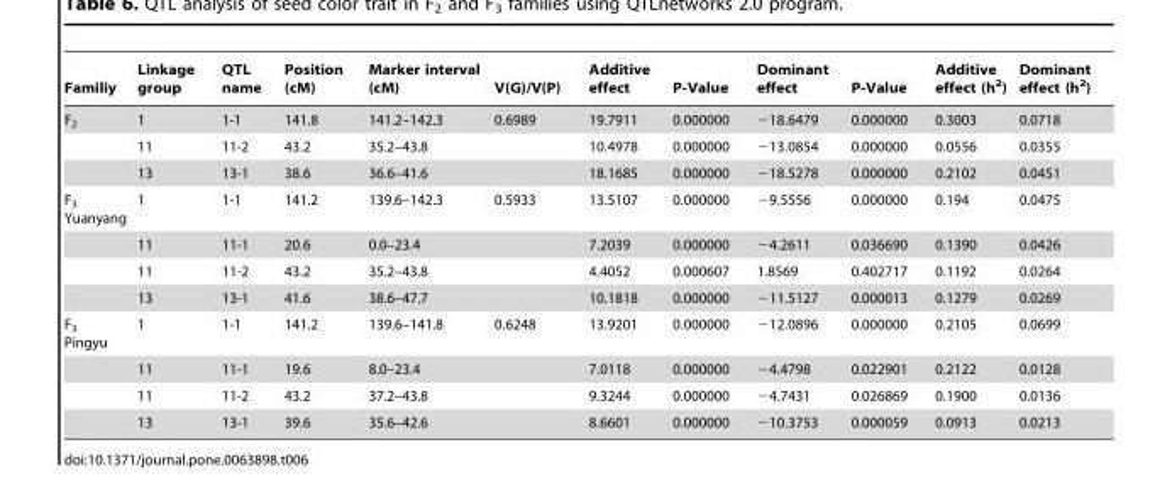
<table><thead><tr><td>Familiy</td><td>Linkage group</td><td>QTL name</td><td>Position (cM)</td><td>Marker interval (cM)</td><td>V(G)/V(P)</td><td>Additive effect</td><td>P-Value</td><td>Dominant effect</td><td>P-Value</td><td>Additive effect (h<sup>2</sup>)</td><td>Dominant effect (h<sup>2</sup>)</td></tr></thead><tbody><tr><td rowspan="3">F<sub>2</sub></td><td>1</td><td>1-1</td><td>141.8</td><td>141.2–142.3</td><td>0.6989</td><td>19.7911</td><td>0.000000</td><td>−18.6479</td><td>0.000000</td><td>0.3003</td><td>0.0718</td></tr><tr><td>11</td><td>11-2</td><td>43.2</td><td>35.2–43.8</td><td></td><td>10.4978</td><td>0.000000</td><td>−13.0854</td><td>0.000000</td><td>0.0556</td><td>0.0355</td></tr><tr><td>13</td><td>13-1</td><td>38.6</td><td>36.6–41.6</td><td></td><td>18.1685</td><td>0.000000</td><td>−18.5278</td><td>0.000000</td><td>0.2102</td><td>0.0451</td></tr><tr><td rowspan="4">F<sub>3</sub> Yuanyang</td><td>1</td><td>1-1</td><td>141.2</td><td>139.6–142.3</td><td>0.5933</td><td>13.5107</td><td>0.000000</td><td>−9.5556</td><td>0.000000</td><td>0.194</td><td>0.0475</td></tr><tr><td>11</td><td>11-1</td><td>20.6</td><td>0.0–23.4</td><td></td><td>7.2039</td><td>0.000000</td><td>−4.2611</td><td>0.036690</td><td>0.1390</td><td>0.0426</td></tr><tr><td>11</td><td>11-2</td><td>43.2</td><td>35.2–43.8</td><td></td><td>4.4052</td><td>0.000607</td><td>1.8569</td><td>0.402717</td><td>0.1192</td><td>0.0264</td></tr><tr><td>13</td><td>13-1</td><td>41.6</td><td>38.6–47.7</td><td></td><td>10.1818</td><td>0.000000</td><td>−11.5127</td><td>0.000013</td><td>0.1279</td><td>0.0269</td></tr><tr><td rowspan="4">F<sub>3</sub> Pingyu</td><td>1</td><td>1-1</td><td>141.2</td><td>139.6–141.8</td><td>0.6248</td><td>13.9201</td><td>0.000000</td><td>−12.0896</td><td>0.000000</td><td>0.2105</td><td>0.0699</td></tr><tr><td>11</td><td>11-1</td><td>19.6</td><td>8.0–23.4</td><td></td><td>7.0118</td><td>0.000000</td><td>−4.4798</td><td>0.022901</td><td>0.2122</td><td>0.0128</td></tr><tr><td>11</td><td>11-2</td><td>43.2</td><td>37.2–43.8</td><td></td><td>9.3244</td><td>0.000000</td><td>−4.7431</td><td>0.026869</td><td>0.1900</td><td>0.0136</td></tr><tr><td>13</td><td>13-1</td><td>39.6</td><td>35.6–42.6</td><td></td><td>8.6601</td><td>0.000000</td><td>−10.3753</td><td>0.000059</td><td>0.0913</td><td>0.0213</td></tr></tbody></table>